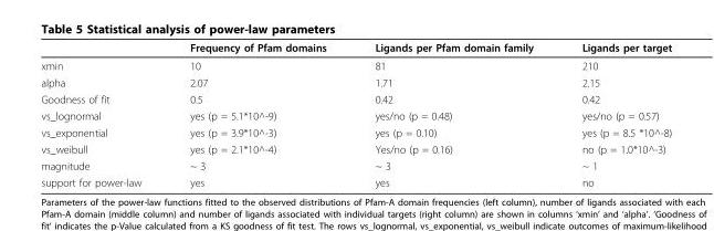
<table><thead><tr><td></td><td>Frequency of Pfam domains</td><td>Ligands per Pfam domain family</td><td>Ligands per target</td></tr></thead><tbody><tr><td>xmin</td><td>10</td><td>81</td><td>210</td></tr><tr><td>alpha</td><td>2.07</td><td>1.71</td><td>2.15</td></tr><tr><td>Goodness of fit</td><td>0.5</td><td>0.42</td><td>0.42</td></tr><tr><td>vs_lognormal</td><td>yes (p = 5.1*10^-9)</td><td>yes/no (p = 0.48)</td><td>yes/no (p = 0.57)</td></tr><tr><td>vs_exponential</td><td>yes (p = 3.9*10^-3)</td><td>yes (p = 0.10)</td><td>yes (p = 8.5 *10^-8)</td></tr><tr><td>vs_weibull</td><td>yes (p = 2.1*10^-4)</td><td>Yes/no (p = 0.16)</td><td>no (p = 1.0*10^-3)</td></tr><tr><td>magnitude</td><td>~ 3</td><td>~ 3</td><td>~ 1</td></tr><tr><td>support for power-law</td><td>yes</td><td>yes</td><td>no</td></tr></tbody></table>